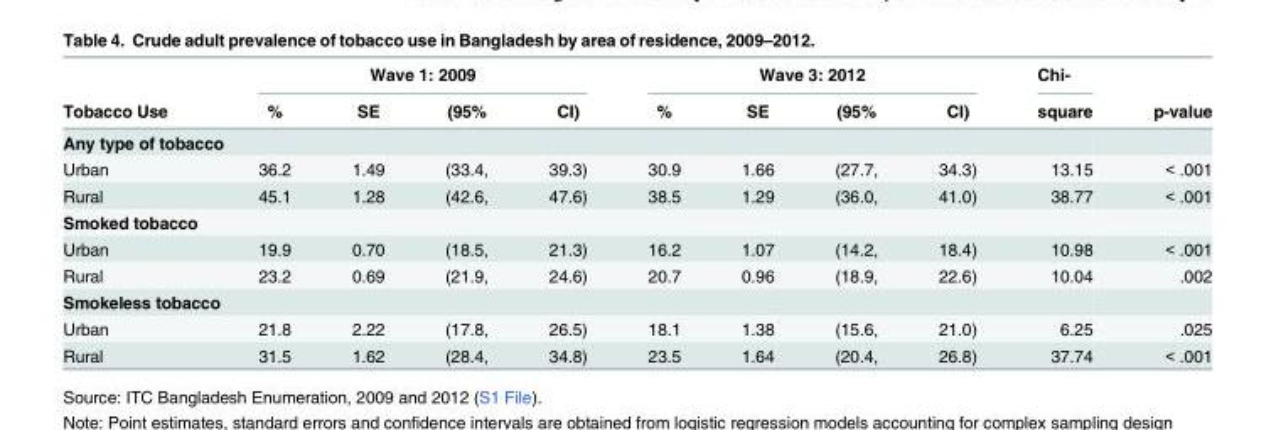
<table><thead><tr><td rowspan="2">Tobacco Use</td><td colspan="4">Wave 1: 2009</td><td colspan="4">Wave 3: 2012</td><td rowspan="2">Chi- square</td><td rowspan="2">p-value</td></tr><tr><td>%</td><td>SE</td><td>(95%</td><td>CI)</td><td>%</td><td>SE</td><td>(95%</td><td>CI)</td></tr></thead><tbody><tr><td colspan="11">Any type of tobacco</td></tr><tr><td>Urban</td><td>36.2</td><td>1.49</td><td>(33.4,</td><td>39.3)</td><td>30.9</td><td>1.66</td><td>(27.7,</td><td>34.3)</td><td>13.15</td><td>&lt; .001</td></tr><tr><td>Rural</td><td>45.1</td><td>1.28</td><td>(42.6,</td><td>47.6)</td><td>38.5</td><td>1.29</td><td>(36.0,</td><td>41.0)</td><td>38.77</td><td>&lt; .001</td></tr><tr><td colspan="11">Smoked tobacco</td></tr><tr><td>Urban</td><td>19.9</td><td>0.70</td><td>(18.5,</td><td>21.3)</td><td>16.2</td><td>1.07</td><td>(14.2,</td><td>18.4)</td><td>10.98</td><td>&lt; .001</td></tr><tr><td>Rural</td><td>23.2</td><td>0.69</td><td>(21.9,</td><td>24.6)</td><td>20.7</td><td>0.96</td><td>(18.9,</td><td>22.6)</td><td>10.04</td><td>.002</td></tr><tr><td colspan="11">Smokeless tobacco</td></tr><tr><td>Urban</td><td>21.8</td><td>2.22</td><td>(17.8,</td><td>26.5)</td><td>18.1</td><td>1.38</td><td>(15.6,</td><td>21.0)</td><td>6.25</td><td>.025</td></tr><tr><td>Rural</td><td>31.5</td><td>1.62</td><td>(28.4,</td><td>34.8)</td><td>23.5</td><td>1.64</td><td>(20.4,</td><td>26.8)</td><td>37.74</td><td>&lt; .001</td></tr></tbody></table>